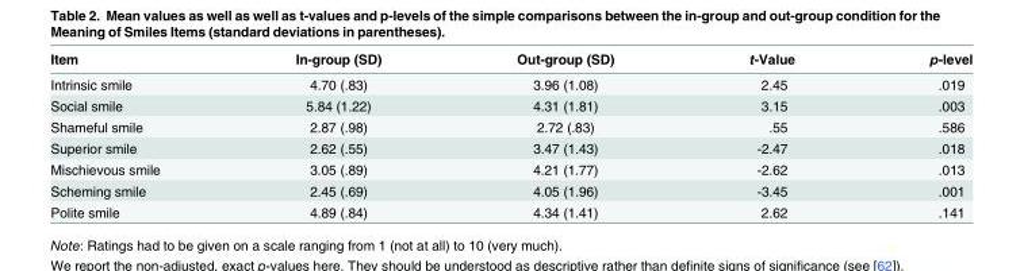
<table><thead><tr><td>Item</td><td>In-group (SD)</td><td>Out-group (SD)</td><td>t-Value</td><td>p-level</td></tr></thead><tbody><tr><td>Intrinsic smile</td><td>4.70 (.83)</td><td>3.96 (1.08)</td><td>2.45</td><td>.019</td></tr><tr><td>Social smile</td><td>5.84 (1.22)</td><td>4.31 (1.81)</td><td>3.15</td><td>.003</td></tr><tr><td>Shameful smile</td><td>2.87 (.98)</td><td>2.72 (.83)</td><td>.55</td><td>.586</td></tr><tr><td>Superior smile</td><td>2.62 (.55)</td><td>3.47 (1.43)</td><td>-2.47</td><td>.018</td></tr><tr><td>Mischievous smile</td><td>3.05 (.89)</td><td>4.21 (1.77)</td><td>-2.62</td><td>.013</td></tr><tr><td>Scheming smile</td><td>2.45 (.69)</td><td>4.05 (1.96)</td><td>-3.45</td><td>.001</td></tr><tr><td>Polite smile</td><td>4.89 (.84)</td><td>4.34 (1.41)</td><td>2.62</td><td>.141</td></tr></tbody></table>